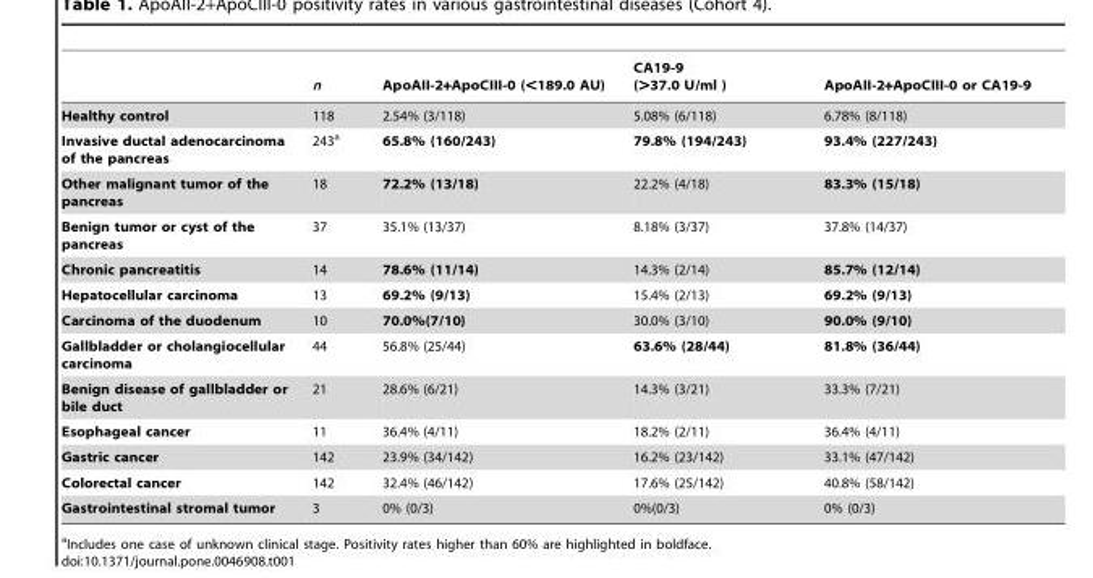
<table><thead><tr><td></td><td>n</td><td>ApoAII-2+ApoCIII-0 (&lt;189.0 AU)</td><td>CA19-9 (&gt;37.0 U/ml )</td><td>ApoAII-2+ApoCIII-0 or CA19-9</td></tr></thead><tbody><tr><td>Healthy control</td><td>118</td><td>2.54% (3/118)</td><td>5.08% (6/118)</td><td>6.78% (8/118)</td></tr><tr><td>Invasive ductal adenocarcinoma of the pancreas</td><td>243<sup>a</sup></td><td>65.8% (160/243)</td><td>79.8% (194/243)</td><td>93.4% (227/243)</td></tr><tr><td>Other malignant tumor of the pancreas</td><td>18</td><td>72.2% (13/18)</td><td>22.2% (4/18)</td><td>83.3% (15/18)</td></tr><tr><td>Benign tumor or cyst of the pancreas</td><td>37</td><td>35.1% (13/37)</td><td>8.18% (3/37)</td><td>37.8% (14/37)</td></tr><tr><td>Chronic pancreatitis</td><td>14</td><td>78.6% (11/14)</td><td>14.3% (2/14)</td><td>85.7% (12/14)</td></tr><tr><td>Hepatocellular carcinoma</td><td>13</td><td>69.2% (9/13)</td><td>15.4% (2/13)</td><td>69.2% (9/13)</td></tr><tr><td>Carcinoma of the duodenum</td><td>10</td><td>70.0%(7/10)</td><td>30.0% (3/10)</td><td>90.0% (9/10)</td></tr><tr><td>Gallbladder or cholangiocellular carcinoma</td><td>44</td><td>56.8% (25/44)</td><td>63.6% (28/44)</td><td>81.8% (36/44)</td></tr><tr><td>Benign disease of gallbladder or bile duct</td><td>21</td><td>28.6% (6/21)</td><td>14.3% (3/21)</td><td>33.3% (7/21)</td></tr><tr><td>Esophageal cancer</td><td>11</td><td>36.4% (4/11)</td><td>18.2% (2/11)</td><td>36.4% (4/11)</td></tr><tr><td>Gastric cancer</td><td>142</td><td>23.9% (34/142)</td><td>16.2% (23/142)</td><td>33.1% (47/142)</td></tr><tr><td>Colorectal cancer</td><td>142</td><td>32.4% (46/142)</td><td>17.6% (25/142)</td><td>40.8% (58/142)</td></tr><tr><td>Gastrointestinal stromal tumor</td><td>3</td><td>0% (0/3)</td><td>0%(0/3)</td><td>0% (0/3)</td></tr></tbody></table>